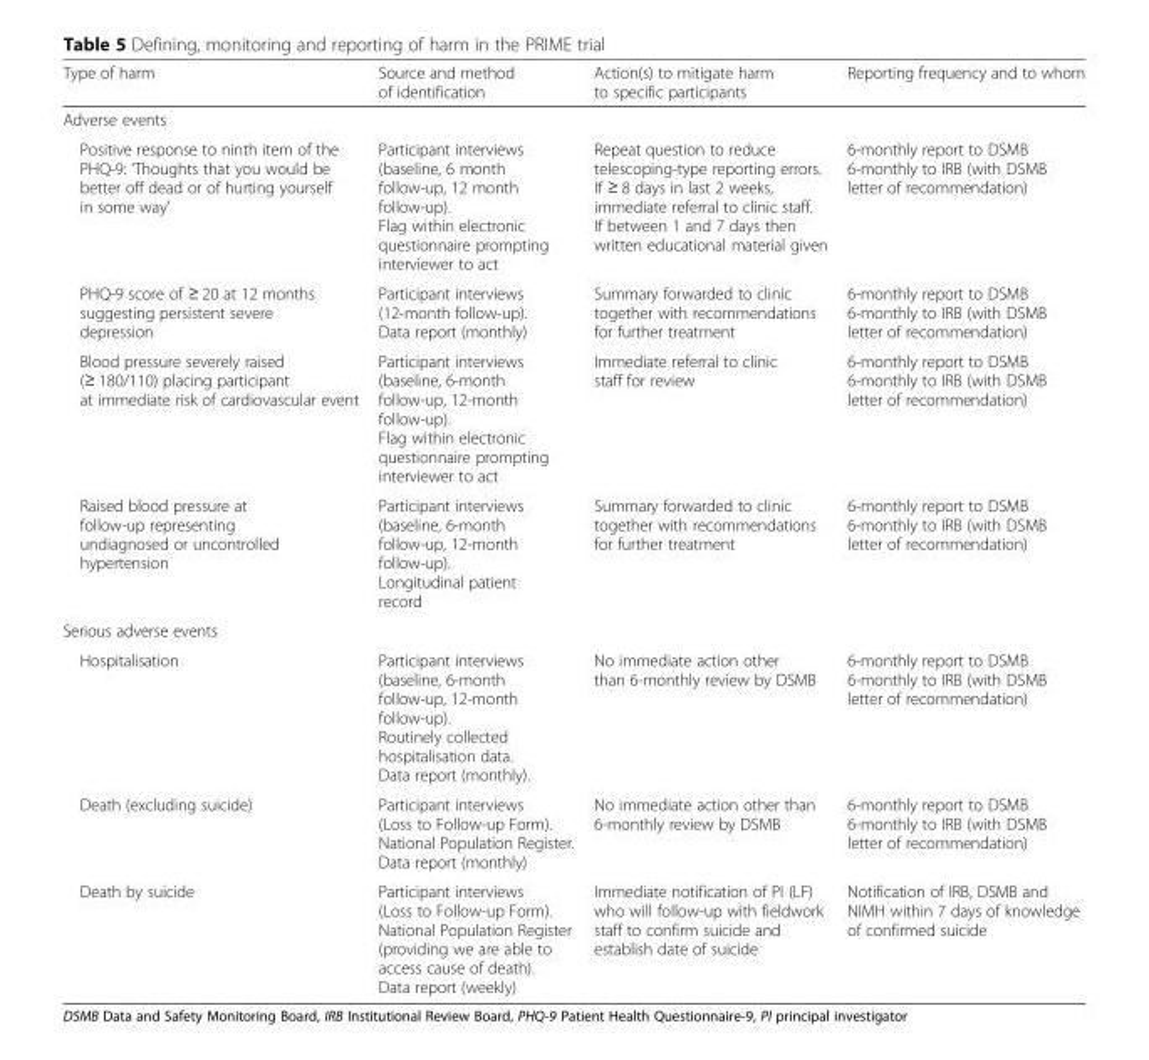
<table><thead><tr><td>Type of harm</td><td>Source and method of identification</td><td>Action(s) to mitigate harm to specific participants</td><td>Reporting frequency and to whom</td></tr></thead><tbody><tr><td colspan="4">Adverse events</td></tr><tr><td>Positive response to ninth item of the PHQ-9: ‘Thoughts that you would be better off dead or of hurting yourself in some way’</td><td>Participant interviews (baseline, 6 month follow-up, 12 month follow-up). Flag within electronic questionnaire prompting interviewer to act</td><td>Repeat question to reduce telescoping-type reporting errors. If ≥ 8 days in last 2 weeks, immediate referral to clinic staff. If between 1 and 7 days then written educational material given</td><td>6-monthly report to DSMB 6-monthly to IRB (with DSMB letter of recommendation)</td></tr><tr><td>PHQ-9 score of ≥ 20 at 12 months suggesting persistent severe depression</td><td>Participant interviews (12-month follow-up). Data report (monthly)</td><td>Summary forwarded to clinic together with recommendations for further treatment</td><td>6-monthly report to DSMB 6-monthly to IRB (with DSMB letter of recommendation)</td></tr><tr><td>Blood pressure severely raised (≥ 180/110) placing participant at immediate risk of cardiovascular event</td><td>Participant interviews (baseline, 6-month follow-up, 12-month follow-up). Flag within electronic questionnaire prompting interviewer to act</td><td>Immediate referral to clinic staff for review</td><td>6-monthly report to DSMB 6-monthly to IRB (with DSMB letter of recommendation)</td></tr><tr><td>Raised blood pressure at follow-up representing undiagnosed or uncontrolled hypertension</td><td>Participant interviews (baseline, 6-month follow-up, 12-month follow-up). Longitudinal patient record</td><td>Summary forwarded to clinic together with recommendations for further treatment</td><td>6-monthly report to DSMB 6-monthly to IRB (with DSMB letter of recommendation)</td></tr><tr><td colspan="4">Serious adverse events</td></tr><tr><td>Hospitalisation</td><td>Participant interviews (baseline, 6-month follow-up, 12-month follow-up). Routinely collected hospitalisation data. Data report (monthly).</td><td>No immediate action other than 6-monthly review by DSMB</td><td>6-monthly report to DSMB 6-monthly to IRB (with DSMB letter of recommendation)</td></tr><tr><td>Death (excluding suicide)</td><td>Participant interviews (Loss to Follow-up Form). National Population Register. Data report (monthly)</td><td>No immediate action other than 6-monthly review by DSMB</td><td>6-monthly report to DSMB 6-monthly to IRB (with DSMB letter of recommendation)</td></tr><tr><td>Death by suicide</td><td>Participant interviews (Loss to Follow-up Form). National Population Register (providing we are able to access cause of death). Data report (weekly)</td><td>Immediate notification of PI (LF) who will follow-up with fieldwork staff to confirm suicide and establish date of suicide</td><td>Notification of IRB, DSMB and NIMH within 7 days of knowledge of confirmed suicide</td></tr></tbody></table>